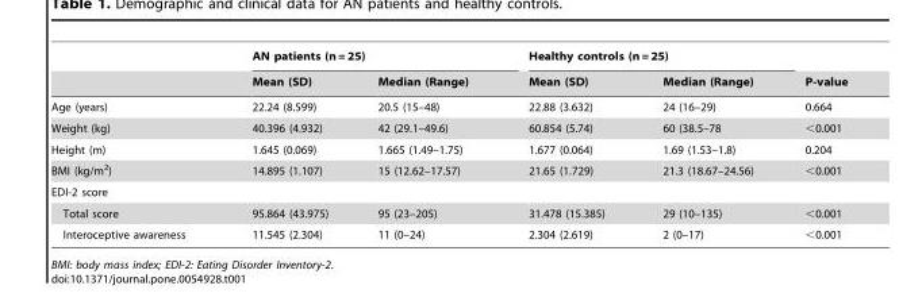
<table><thead><tr><td rowspan="2"></td><td colspan="2">AN patients (n = 25)</td><td colspan="2">Healthy controls (n = 25)</td><td rowspan="2">P-value</td></tr><tr><td>Mean (SD)</td><td>Median (Range)</td><td>Mean (SD)</td><td>Median (Range)</td></tr></thead><tbody><tr><td>Age (years)</td><td>22.24 (8.599)</td><td>20.5 (15–48)</td><td>22.88 (3.632)</td><td>24 (16–29)</td><td>0.664</td></tr><tr><td>Weight (kg)</td><td>40.396 (4.932)</td><td>42 (29.1–49.6)</td><td>60.854 (5.74)</td><td>60 (38.5–78</td><td>&lt;0.001</td></tr><tr><td>Height (m)</td><td>1.645 (0.069)</td><td>1.665 (1.49–1.75)</td><td>1.677 (0.064)</td><td>1.69 (1.53–1.8)</td><td>0.204</td></tr><tr><td>BMI (kg/m<sup>2</sup>)</td><td>14.895 (1.107)</td><td>15 (12.62–17.57)</td><td>21.65 (1.729)</td><td>21.3 (18.67–24.56)</td><td>&lt;0.001</td></tr><tr><td colspan="6">EDI-2 score</td></tr><tr><td>Total score</td><td>95.864 (43.975)</td><td>95 (23–205)</td><td>31.478 (15.385)</td><td>29 (10–135)</td><td>&lt;0.001</td></tr><tr><td>Interoceptive awareness</td><td>11.545 (2.304)</td><td>11 (0–24)</td><td>2.304 (2.619)</td><td>2 (0–17)</td><td>&lt;0.001</td></tr></tbody></table>